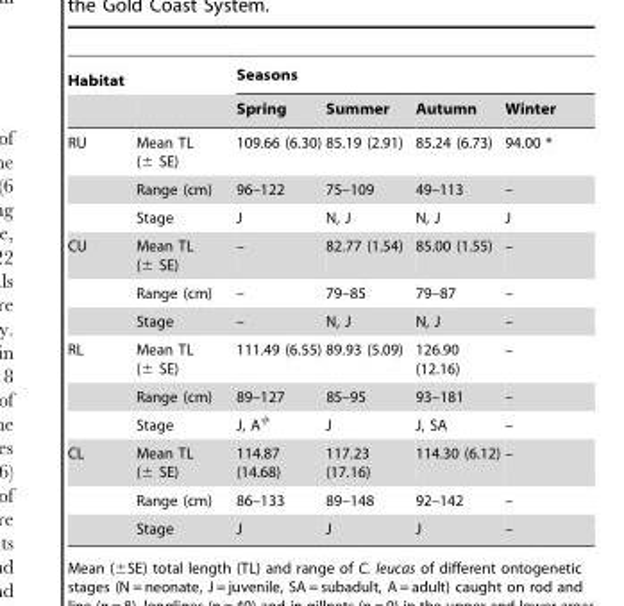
<table><thead><tr><td rowspan="2">Habitat</td><td rowspan="2"></td><td colspan="4">Seasons</td></tr><tr><td>Spring</td><td>Summer</td><td>Autumn</td><td>Winter</td></tr></thead><tbody><tr><td rowspan="3">RU</td><td>Mean TL (± SE)</td><td>109.66 (6.30)</td><td>85.19 (2.91)</td><td>85.24 (6.73)</td><td>94.00 *</td></tr><tr><td>Range (cm)</td><td>96–122</td><td>75–109</td><td>49–113</td><td>–</td></tr><tr><td>Stage</td><td>J</td><td>N, J</td><td>N, J</td><td>J</td></tr><tr><td rowspan="3">CU</td><td>Mean TL (± SE)</td><td>–</td><td>82.77 (1.54)</td><td>85.00 (1.55)</td><td>–</td></tr><tr><td>Range (cm)</td><td>–</td><td>79–85</td><td>79–87</td><td>–</td></tr><tr><td>Stage</td><td>–</td><td>N, J</td><td>N, J</td><td>–</td></tr><tr><td rowspan="3">RL</td><td>Mean TL (± SE)</td><td>111.49 (6.55)</td><td>89.93 (5.09)</td><td>126.90 (12.16)</td><td>–</td></tr><tr><td>Range (cm)</td><td>89–127</td><td>85–95</td><td>93–181</td><td>–</td></tr><tr><td>Stage</td><td>J, A<sup>#</sup></td><td>J</td><td>J, SA</td><td>–</td></tr><tr><td rowspan="3">CL</td><td>Mean TL (± SE)</td><td>114.87 (14.68)</td><td>117.23 (17.16)</td><td>114.30 (6.12)</td><td>–</td></tr><tr><td>Range (cm)</td><td>86–133</td><td>89–148</td><td>92–142</td><td>–</td></tr><tr><td>Stage</td><td>J</td><td>J</td><td>J</td><td>–</td></tr></tbody></table>